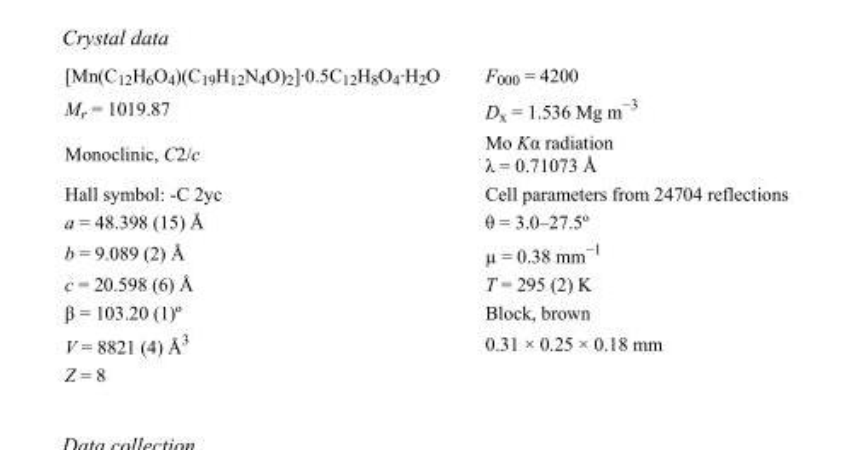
<table><tbody><tr><td>[Mn(C<sub>12</sub>H<sub>6</sub>O<sub>4</sub>)(C<sub>19</sub>H<sub>12</sub>N<sub>4</sub>O)<sub>2</sub>]·0.5C<sub>12</sub>H<sub>8</sub>O<sub>4</sub>·H<sub>2</sub>O</td><td>F<sub>000</sub> = 4200</td></tr><tr><td>M<sub>r</sub> = 1019.87</td><td>D<sub>x</sub> = 1.536 Mg m<sup>−3</sup></td></tr><tr><td>Monoclinic, C2/c</td><td>Mo Kα radiation λ = 0.71073 Å</td></tr><tr><td>Hall symbol: -C 2yc</td><td>Cell parameters from 24704 reflections</td></tr><tr><td>a = 48.398 (15) Å</td><td>θ = 3.0–27.5º</td></tr><tr><td>b = 9.089 (2) Å</td><td>µ = 0.38 mm<sup>−1</sup></td></tr><tr><td>c = 20.598 (6) Å</td><td>T = 295 (2) K</td></tr><tr><td>β = 103.20 (1)º</td><td>Block, brown</td></tr><tr><td>V = 8821 (4) Å<sup>3</sup></td><td>0.31 × 0.25 × 0.18 mm</td></tr><tr><td>Z = 8</td><td></td></tr></tbody></table>